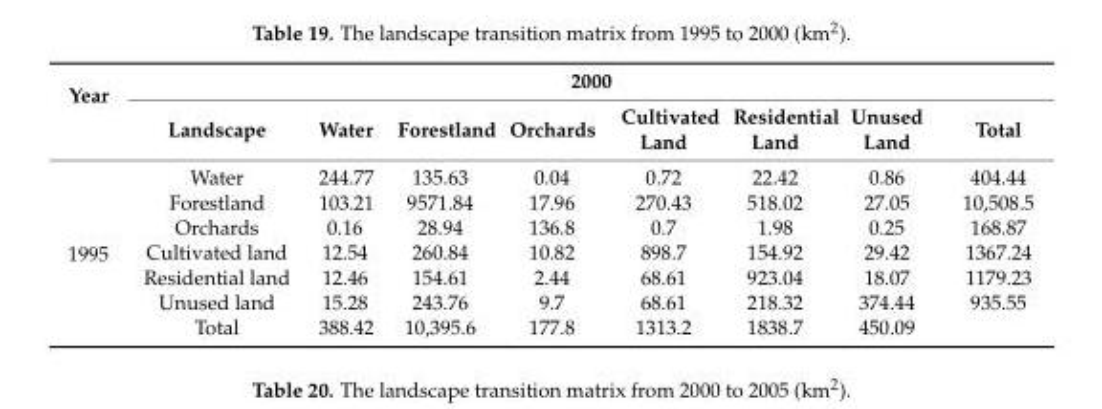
<table><thead><tr><td rowspan="2">Year</td><td colspan="8">2000</td></tr><tr><td>Landscape</td><td>Water</td><td>Forestland</td><td>Orchards</td><td>Cultivated Land</td><td>Residential Land</td><td>Unused Land</td><td>Total</td></tr></thead><tbody><tr><td rowspan="7">1995</td><td>Water</td><td>244.77</td><td>135.63</td><td>0.04</td><td>0.72</td><td>22.42</td><td>0.86</td><td>404.44</td></tr><tr><td>Forestland</td><td>103.21</td><td>9571.84</td><td>17.96</td><td>270.43</td><td>518.02</td><td>27.05</td><td>10,508.5</td></tr><tr><td>Orchards</td><td>0.16</td><td>28.94</td><td>136.8</td><td>0.7</td><td>1.98</td><td>0.25</td><td>168.87</td></tr><tr><td>Cultivated land</td><td>12.54</td><td>260.84</td><td>10.82</td><td>898.7</td><td>154.92</td><td>29.42</td><td>1367.24</td></tr><tr><td>Residential land</td><td>12.46</td><td>154.61</td><td>2.44</td><td>68.61</td><td>923.04</td><td>18.07</td><td>1179.23</td></tr><tr><td>Unused land</td><td>15.28</td><td>243.76</td><td>9.7</td><td>68.61</td><td>218.32</td><td>374.44</td><td>935.55</td></tr><tr><td>Total</td><td>388.42</td><td>10,395.6</td><td>177.8</td><td>1313.2</td><td>1838.7</td><td>450.09</td><td></td></tr></tbody></table>